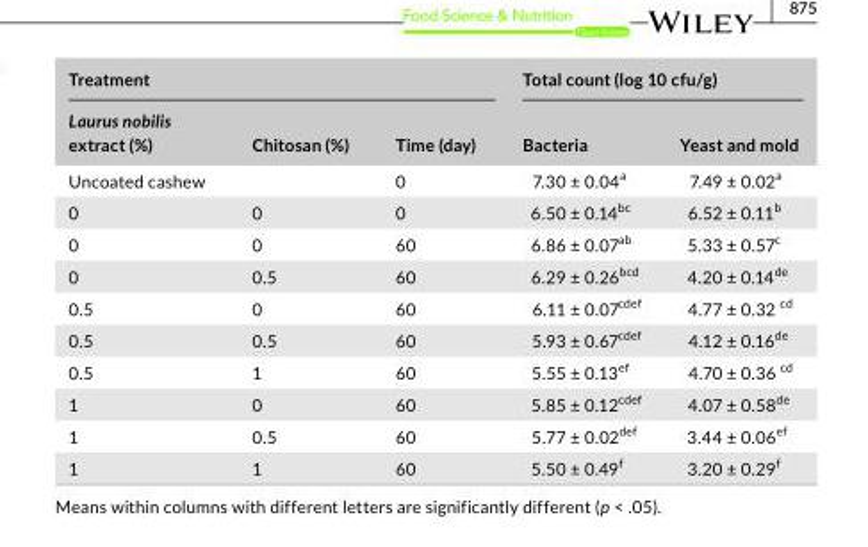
<table><thead><tr><td colspan="3">Treatment</td><td colspan="2">Total count (log 10 cfu/g)</td></tr><tr><td>Laurus nobilis extract (%)</td><td>Chitosan (%)</td><td>Time (day)</td><td>Bacteria</td><td>Yeast and mold</td></tr></thead><tbody><tr><td>Uncoated cashew</td><td></td><td>0</td><td>7.30 ± 0.04<sup>a</sup></td><td>7.49 ± 0.02<sup>a</sup></td></tr><tr><td>0</td><td>0</td><td>0</td><td>6.50 ± 0.14<sup>bc</sup></td><td>6.52 ± 0.11<sup>b</sup></td></tr><tr><td>0</td><td>0</td><td>60</td><td>6.86 ± 0.07<sup>ab</sup></td><td>5.33 ± 0.57<sup>c</sup></td></tr><tr><td>0</td><td>0.5</td><td>60</td><td>6.29 ± 0.26<sup>bcd</sup></td><td>4.20 ± 0.14<sup>de</sup></td></tr><tr><td>0.5</td><td>0</td><td>60</td><td>6.11 ± 0.07<sup>cdef</sup></td><td>4.77 ± 0.32 <sup>cd</sup></td></tr><tr><td>0.5</td><td>0.5</td><td>60</td><td>5.93 ± 0.67<sup>cdef</sup></td><td>4.12 ± 0.16<sup>de</sup></td></tr><tr><td>0.5</td><td>1</td><td>60</td><td>5.55 ± 0.13<sup>ef</sup></td><td>4.70 ± 0.36 <sup>cd</sup></td></tr><tr><td>1</td><td>0</td><td>60</td><td>5.85 ± 0.12<sup>cdef</sup></td><td>4.07 ± 0.58<sup>de</sup></td></tr><tr><td>1</td><td>0.5</td><td>60</td><td>5.77 ± 0.02<sup>def</sup></td><td>3.44 ± 0.06<sup>ef</sup></td></tr><tr><td>1</td><td>1</td><td>60</td><td>5.50 ± 0.49<sup>f</sup></td><td>3.20 ± 0.29<sup>f</sup></td></tr></tbody></table>